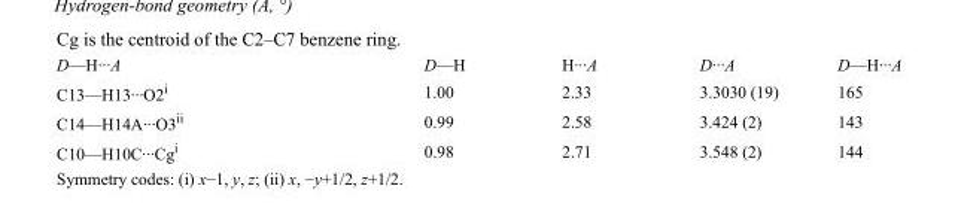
<table><tbody><tr><td>D—H···A</td><td>D—H</td><td>H···A</td><td>D···A</td><td>D—H···A</td></tr><tr><td>C13—H13···O2<sup>i</sup></td><td>1.00</td><td>2.33</td><td>3.3030 (19)</td><td>165</td></tr><tr><td>C14—H14A···O3<sup>ii</sup></td><td>0.99</td><td>2.58</td><td>3.424 (2)</td><td>143</td></tr><tr><td>C10—H10C···Cg<sup>i</sup></td><td>0.98</td><td>2.71</td><td>3.548 (2)</td><td>144</td></tr></tbody></table>